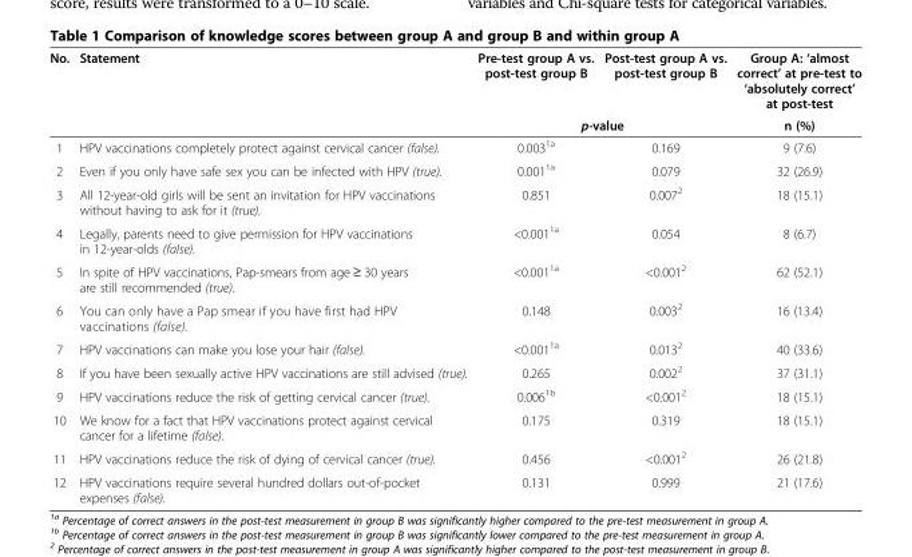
<table><thead><tr><td rowspan="2">No.</td><td rowspan="2">Statement</td><td>Pre-test group A vs. post-test group B</td><td>Post-test group A vs. post-test group B</td><td rowspan="2">Group A: ‘almost correct’ at pre-test to ‘absolutely correct’ at post-test n (%)</td></tr><tr><td colspan="2">p-value</td></tr></thead><tbody><tr><td>1</td><td>HPV vaccinations completely protect against cervical cancer (false).</td><td>0.003<sup>1a</sup></td><td>0.169</td><td>9 (7.6)</td></tr><tr><td>2</td><td>Even if you only have safe sex you can be infected with HPV (true).</td><td>0.001<sup>1a</sup></td><td>0.079</td><td>32 (26.9)</td></tr><tr><td>3</td><td>All 12-year-old girls will be sent an invitation for HPV vaccinations without having to ask for it (true).</td><td>0.851</td><td>0.007<sup>2</sup></td><td>18 (15.1)</td></tr><tr><td>4</td><td>Legally, parents need to give permission for HPV vaccinations in 12-year-olds (false).</td><td>&lt;0.001<sup>1a</sup></td><td>0.054</td><td>8 (6.7)</td></tr><tr><td>5</td><td>In spite of HPV vaccinations, Pap-smears from age ≥ 30 years are still recommended (true).</td><td>&lt;0.001<sup>1a</sup></td><td>&lt;0.001<sup>2</sup></td><td>62 (52.1)</td></tr><tr><td>6</td><td>You can only have a Pap smear if you have first had HPV vaccinations (false).</td><td>0.148</td><td>0.003<sup>2</sup></td><td>16 (13.4)</td></tr><tr><td>7</td><td>HPV vaccinations can make you lose your hair (false).</td><td>&lt;0.001<sup>1a</sup></td><td>0.013<sup>2</sup></td><td>40 (33.6)</td></tr><tr><td>8</td><td>If you have been sexually active HPV vaccinations are still advised (true).</td><td>0.265</td><td>0.002<sup>2</sup></td><td>37 (31.1)</td></tr><tr><td>9</td><td>HPV vaccinations reduce the risk of getting cervical cancer (true).</td><td>0.006<sup>1b</sup></td><td>&lt;0.001<sup>2</sup></td><td>18 (15.1)</td></tr><tr><td>10</td><td>We know for a fact that HPV vaccinations protect against cervical cancer for a lifetime (false).</td><td>0.175</td><td>0.319</td><td>18 (15.1)</td></tr><tr><td>11</td><td>HPV vaccinations reduce the risk of dying of cervical cancer (true).</td><td>0.456</td><td>&lt;0.001<sup>2</sup></td><td>26 (21.8)</td></tr><tr><td>12</td><td>HPV vaccinations require several hundred dollars out-of-pocket expenses (false).</td><td>0.131</td><td>0.999</td><td>21 (17.6)</td></tr></tbody></table>